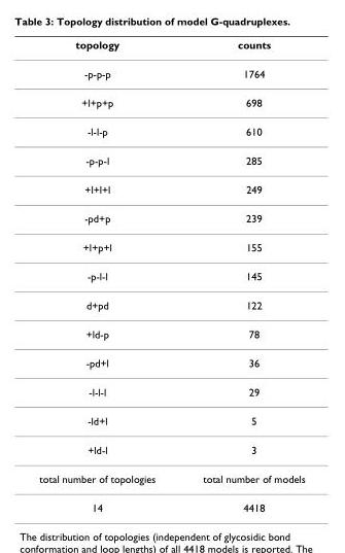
<table><thead><tr><td>topology</td><td>counts</td></tr></thead><tbody><tr><td>-p-p-p</td><td>1764</td></tr><tr><td>+l+p+p</td><td>698</td></tr><tr><td>-l-l-p</td><td>610</td></tr><tr><td>-p-p-l</td><td>285</td></tr><tr><td>+l+l+l</td><td>249</td></tr><tr><td>-pd+p</td><td>239</td></tr><tr><td>+l+p+l</td><td>155</td></tr><tr><td>-p-l-l</td><td>145</td></tr><tr><td>d+pd</td><td>122</td></tr><tr><td>+ld-p</td><td>78</td></tr><tr><td>-pd+l</td><td>36</td></tr><tr><td>-l-l-l</td><td>29</td></tr><tr><td>-ld+l</td><td>5</td></tr><tr><td>+ld-l</td><td>3</td></tr><tr><td>total number of topologies</td><td>total number of models</td></tr><tr><td>14</td><td>4418</td></tr></tbody></table>